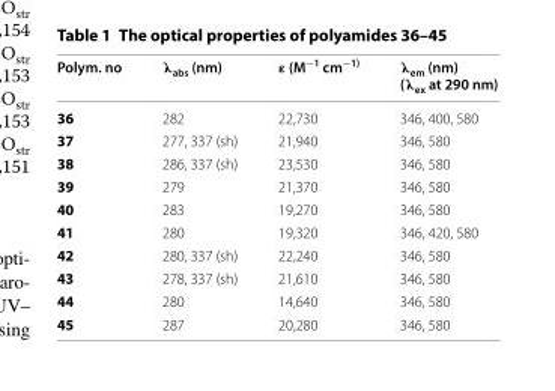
<table><thead><tr><td>Polym. no</td><td>λ<sub>abs</sub> (nm)</td><td>ε (M<sup>−1</sup> cm<sup>−1)</sup></td><td>λ<sub>em</sub> (nm) (λ<sub>ex</sub> at 290 nm)</td></tr></thead><tbody><tr><td>36</td><td>282</td><td>22,730</td><td>346, 400, 580</td></tr><tr><td>37</td><td>277, 337 (sh)</td><td>21,940</td><td>346, 580</td></tr><tr><td>38</td><td>286, 337 (sh)</td><td>23,530</td><td>346, 580</td></tr><tr><td>39</td><td>279</td><td>21,370</td><td>346, 580</td></tr><tr><td>40</td><td>283</td><td>19,270</td><td>346, 580</td></tr><tr><td>41</td><td>280</td><td>19,320</td><td>346, 420, 580</td></tr><tr><td>42</td><td>280, 337 (sh)</td><td>22,240</td><td>346, 580</td></tr><tr><td>43</td><td>278, 337 (sh)</td><td>21,610</td><td>346, 580</td></tr><tr><td>44</td><td>280</td><td>14,640</td><td>346, 580</td></tr><tr><td>45</td><td>287</td><td>20,280</td><td>346, 580</td></tr></tbody></table>